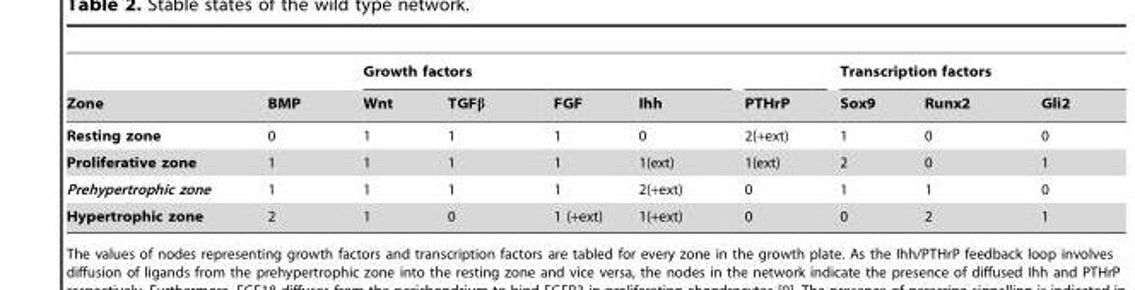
<table><thead><tr><td rowspan="2">Zone</td><td rowspan="2">BMP</td><td colspan="4">Growth factors</td><td rowspan="2">PTHrP</td><td colspan="3">Transcription factors</td></tr><tr><td>Wnt</td><td>TGFβ</td><td>FGF</td><td>Ihh</td><td>Sox9</td><td>Runx2</td><td>Gli2</td></tr></thead><tbody><tr><td>Resting zone</td><td>0</td><td>1</td><td>1</td><td>1</td><td>0</td><td>2(+ext)</td><td>1</td><td>0</td><td>0</td></tr><tr><td>Proliferative zone</td><td>1</td><td>1</td><td>1</td><td>1</td><td>1(ext)</td><td>1(ext)</td><td>2</td><td>0</td><td>1</td></tr><tr><td>Prehypertrophic zone</td><td>1</td><td>1</td><td>1</td><td>1</td><td>2(+ext)</td><td>0</td><td>1</td><td>1</td><td>0</td></tr><tr><td>Hypertrophic zone</td><td>2</td><td>1</td><td>0</td><td>1 (+ext)</td><td>1(+ext)</td><td>0</td><td>0</td><td>2</td><td>1</td></tr></tbody></table>